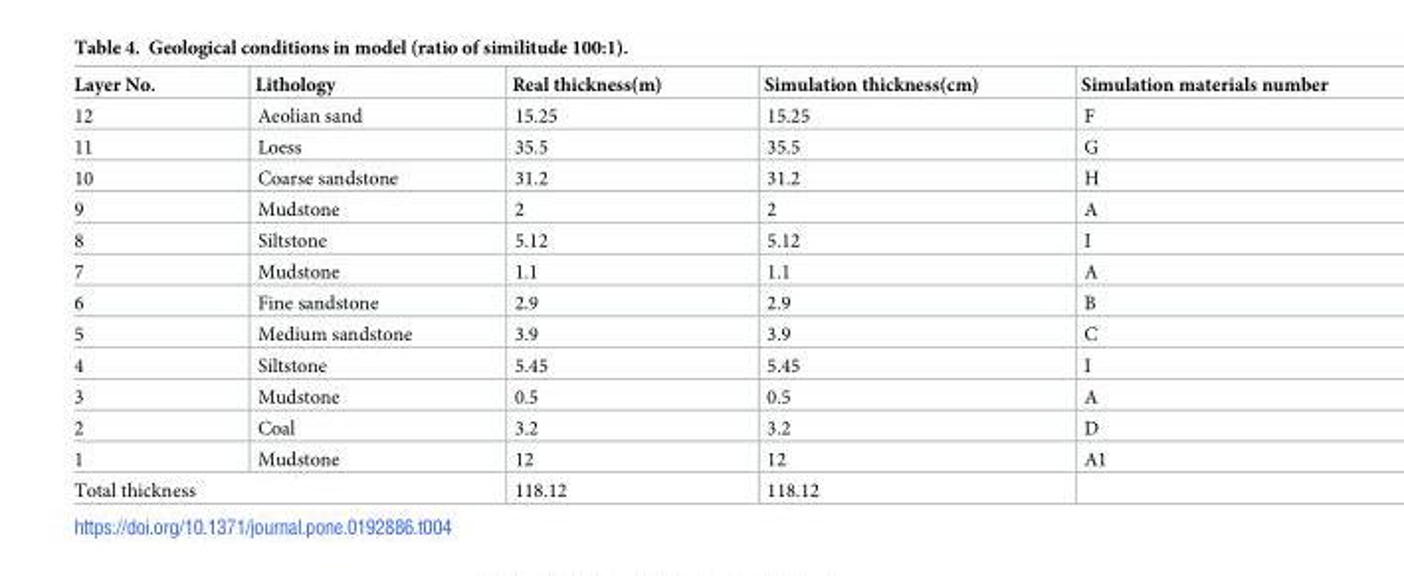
<table><thead><tr><td>Layer No.</td><td>Lithology</td><td>Real thickness(m)</td><td>Simulation thickness(cm)</td><td>Simulation materials number</td></tr></thead><tbody><tr><td>12</td><td>Aeolian sand</td><td>15.25</td><td>15.25</td><td>F</td></tr><tr><td>11</td><td>Loess</td><td>35.5</td><td>35.5</td><td>G</td></tr><tr><td>10</td><td>Coarse sandstone</td><td>31.2</td><td>31.2</td><td>H</td></tr><tr><td>9</td><td>Mudstone</td><td>2</td><td>2</td><td>A</td></tr><tr><td>8</td><td>Siltstone</td><td>5.12</td><td>5.12</td><td>I</td></tr><tr><td>7</td><td>Mudstone</td><td>1.1</td><td>1.1</td><td>A</td></tr><tr><td>6</td><td>Fine sandstone</td><td>2.9</td><td>2.9</td><td>B</td></tr><tr><td>5</td><td>Medium sandstone</td><td>3.9</td><td>3.9</td><td>C</td></tr><tr><td>4</td><td>Siltstone</td><td>5.45</td><td>5.45</td><td>I</td></tr><tr><td>3</td><td>Mudstone</td><td>0.5</td><td>0.5</td><td>A</td></tr><tr><td>2</td><td>Coal</td><td>3.2</td><td>3.2</td><td>D</td></tr><tr><td>1</td><td>Mudstone</td><td>12</td><td>12</td><td>A1</td></tr><tr><td colspan="2">Total thickness</td><td>118.12</td><td>118.12</td><td></td></tr></tbody></table>